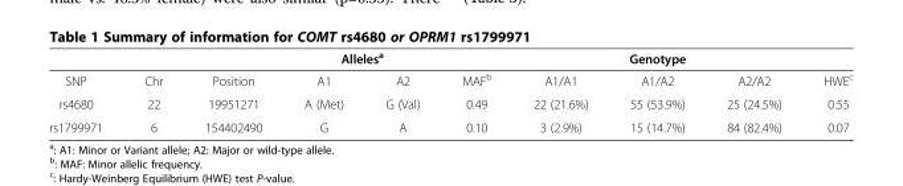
<table><thead><tr><td rowspan="2">SNP</td><td rowspan="2">Chr</td><td rowspan="2">Position</td><td colspan="2">Alleles<sup>a</sup></td><td rowspan="2">MAF<sup>b</sup></td><td colspan="3">Genotype</td><td rowspan="2">HWE<sup>c</sup></td></tr><tr><td>A1</td><td>A2</td><td>A1/A1</td><td>A1/A2</td><td>A2/A2</td></tr></thead><tbody><tr><td>rs4680</td><td>22</td><td>19951271</td><td>A (Met)</td><td>G (Val)</td><td>0.49</td><td>22 (21.6%)</td><td>55 (53.9%)</td><td>25 (24.5%)</td><td>0.55</td></tr><tr><td>rs1799971</td><td>6</td><td>154402490</td><td>G</td><td>A</td><td>0.10</td><td>3 (2.9%)</td><td>15 (14.7%)</td><td>84 (82.4%)</td><td>0.07</td></tr></tbody></table>